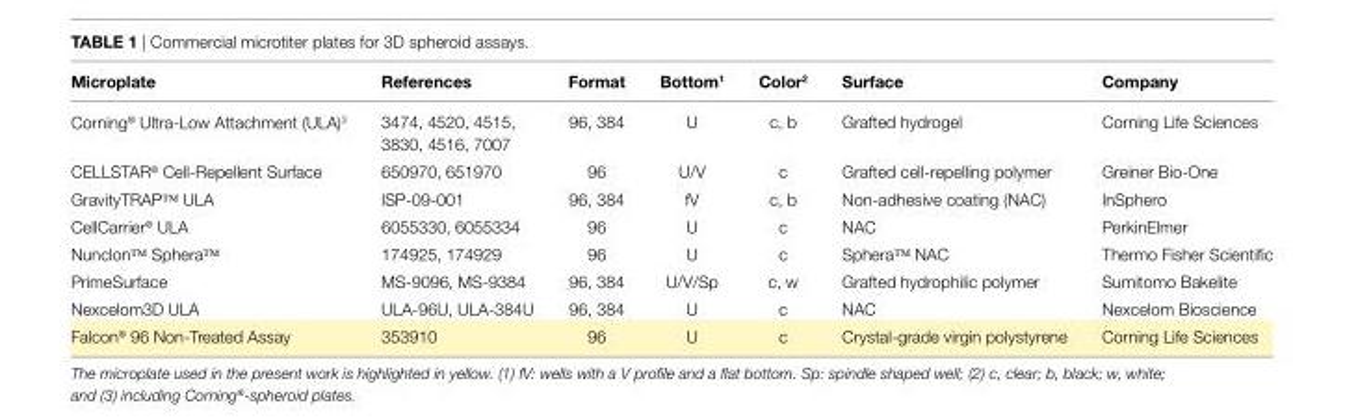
<table><thead><tr><td>Microplate</td><td>References</td><td>Format</td><td>bottom<sup>1</sup></td><td>Color<sup>2</sup></td><td>surface</td><td>Company</td></tr></thead><tbody><tr><td>Corning<sup>®</sup> Ultra-Low Attachment (ULA)<sup>3</sup></td><td>3474, 4520, 4515, 3830, 4516, 7007</td><td>96, 384</td><td>U</td><td>c, b</td><td>Grafted hydrogel</td><td>Corning Life Sciences</td></tr><tr><td>CELLSTAR<sup>®</sup> Cell-Repellent Surface</td><td>650970, 651970</td><td>96</td><td>U/V</td><td>c</td><td>Grafted cell-repelling polymer</td><td>Greiner Bio-One</td></tr><tr><td>GravityTRAP™ ULA</td><td>ISP-09-001</td><td>96, 384</td><td>fV</td><td>c, b</td><td>Non-adhesive coating (NAC)</td><td>InSphero</td></tr><tr><td>CellCarrier<sup>®</sup> ULA</td><td>6055330, 6055334</td><td>96</td><td>U</td><td>c</td><td>NAC</td><td>PerkinElmer</td></tr><tr><td>Nunclon™ Sphera™</td><td>174925, 174929</td><td>96</td><td>U</td><td>c</td><td>Sphera™ NAC</td><td>Thermo Fisher Scientific</td></tr><tr><td>PrimeSurface</td><td>MS-9096, MS-9384</td><td>96, 384</td><td>U/V/Sp</td><td>c, w</td><td>Grafted hydrophilic polymer</td><td>Sumitomo Bakelite</td></tr><tr><td>Nexcelom3D ULA</td><td>ULA-96U, ULA-384U</td><td>96, 384</td><td>U</td><td>c</td><td>NAC</td><td>Nexcelom Bioscience</td></tr><tr><td>Falcon<sup>®</sup> 96 Non-Treated Assay</td><td>353910</td><td>96</td><td>U</td><td>c</td><td>Crystal-grade virgin polystyrene</td><td>Corning Life Sciences</td></tr></tbody></table>